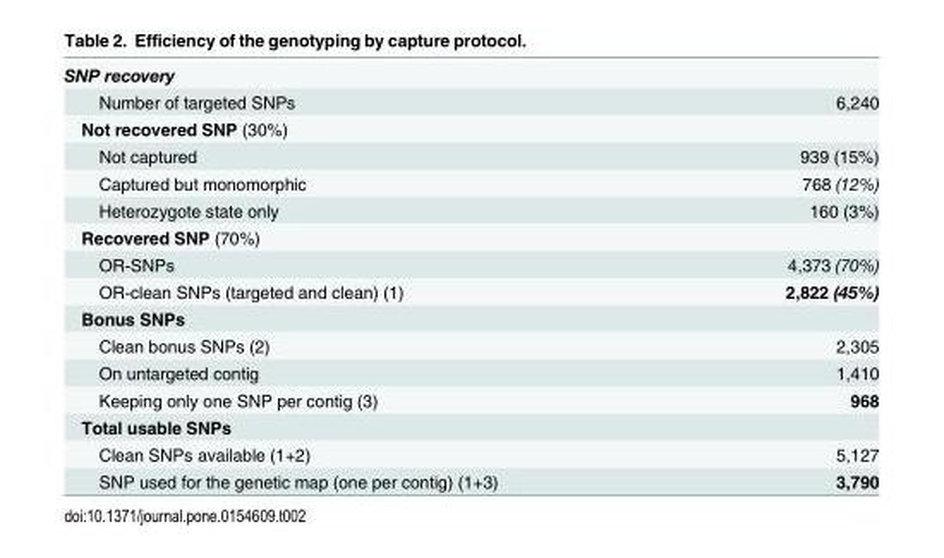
<table><tbody><tr><td colspan="2">SNP recovery</td></tr><tr><td>Number of targeted SNPs</td><td>6,240</td></tr><tr><td colspan="2">Not recovered SNP (30%)</td></tr><tr><td>Not captured</td><td>939 (15%)</td></tr><tr><td>Captured but monomorphic</td><td>768 (12%)</td></tr><tr><td>Heterozygote state only</td><td>160 (3%)</td></tr><tr><td colspan="2">Recovered SNP (70%)</td></tr><tr><td>OR-SNPs</td><td>4,373 (70%)</td></tr><tr><td>OR-clean SNPs (targeted and clean) (1)</td><td>2,822 (45%)</td></tr><tr><td colspan="2">Bonus SNPs</td></tr><tr><td>Clean bonus SNPs (2)</td><td>2,305</td></tr><tr><td>On untargeted contig</td><td>1,410</td></tr><tr><td>Keeping only one SNP per contig (3)</td><td>968</td></tr><tr><td colspan="2">Total usable SNPs</td></tr><tr><td>Clean SNPs available (1+2)</td><td>5,127</td></tr><tr><td>SNP used for the genetic map (one per contig) (1+3)</td><td>3,790</td></tr></tbody></table>